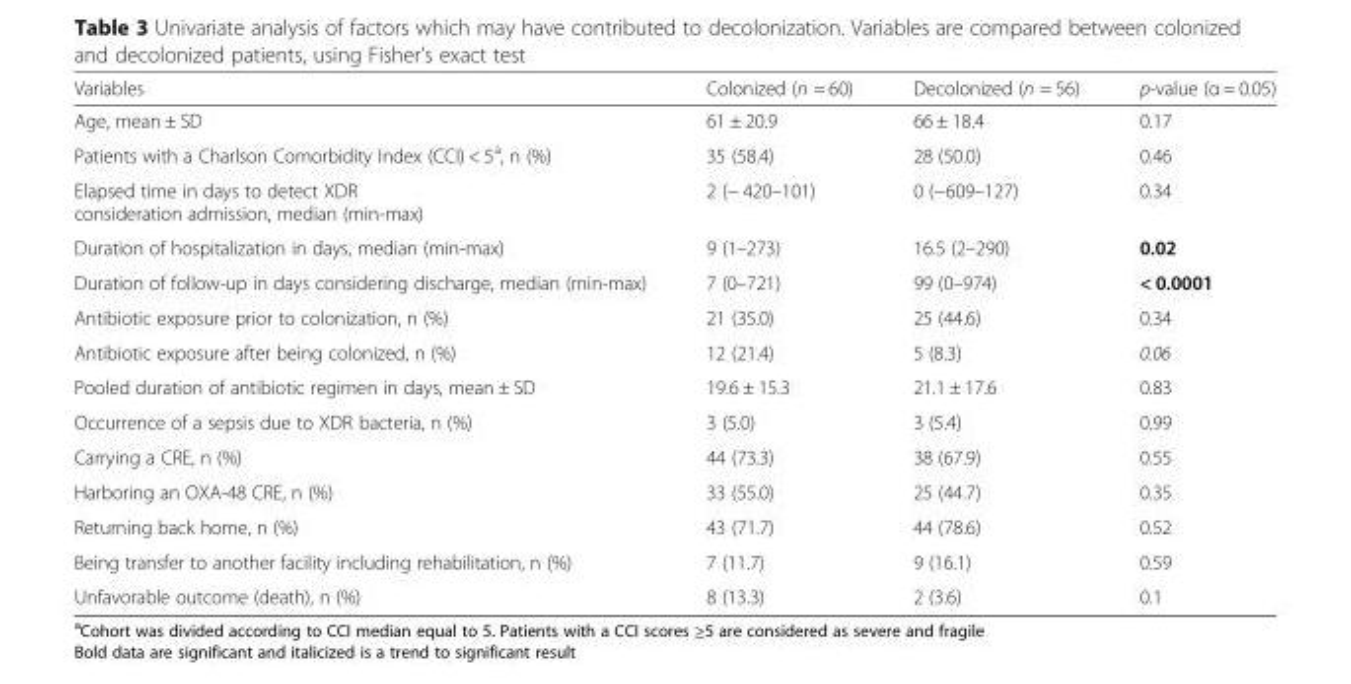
<table><thead><tr><td>Variables</td><td>Colonized (n = 60)</td><td>Decolonized (n = 56)</td><td>p-value (α = 0.05)</td></tr></thead><tbody><tr><td>Age, mean ± SD</td><td>61 ± 20.9</td><td>66 ± 18.4</td><td>0.17</td></tr><tr><td>Patients with a Charlson Comorbidity Index (CCI) &lt; 5<sup>a</sup>, n (%)</td><td>35 (58.4)</td><td>28 (50.0)</td><td>0.46</td></tr><tr><td>Elapsed time in days to detect XDR consideration admission, median (min-max)</td><td>2 (− 420–101)</td><td>0 (−609–127)</td><td>0.34</td></tr><tr><td>Duration of hospitalization in days, median (min-max)</td><td>9 (1–273)</td><td>16.5 (2–290)</td><td>0.02</td></tr><tr><td>Duration of follow-up in days considering discharge, median (min-max)</td><td>7 (0–721)</td><td>99 (0–974)</td><td>&lt; 0.0001</td></tr><tr><td>Antibiotic exposure prior to colonization, n (%)</td><td>21 (35.0)</td><td>25 (44.6)</td><td>0.34</td></tr><tr><td>Antibiotic exposure after being colonized, n (%)</td><td>12 (21.4)</td><td>5 (8.3)</td><td>0.06</td></tr><tr><td>Pooled duration of antibiotic regimen in days, mean ± SD</td><td>19.6 ± 15.3</td><td>21.1 ± 17.6</td><td>0.83</td></tr><tr><td>Occurrence of a sepsis due to XDR bacteria, n (%)</td><td>3 (5.0)</td><td>3 (5.4)</td><td>0.99</td></tr><tr><td>Carrying a CRE, n (%)</td><td>44 (73.3)</td><td>38 (67.9)</td><td>0.55</td></tr><tr><td>Harboring an OXA-48 CRE, n (%)</td><td>33 (55.0)</td><td>25 (44.7)</td><td>0.35</td></tr><tr><td>Returning back home, n (%)</td><td>43 (71.7)</td><td>44 (78.6)</td><td>0.52</td></tr><tr><td>Being transfer to another facility including rehabilitation, n (%)</td><td>7 (11.7)</td><td>9 (16.1)</td><td>0.59</td></tr><tr><td>Unfavorable outcome (death), n (%)</td><td>8 (13.3)</td><td>2 (3.6)</td><td>0.1</td></tr></tbody></table>